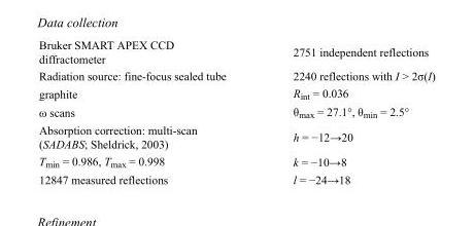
<table><tbody><tr><td>Bruker SMART APEX CCD diffractometer</td><td>2751 independent reflections</td></tr><tr><td>Radiation source: fine-focus sealed tube</td><td>2240 reflections with I &gt; 2σ(I)</td></tr><tr><td>graphite</td><td>R<sub>int</sub> = 0.036</td></tr><tr><td>ω scans</td><td>θ<sub>max</sub> = 27.1°, θ<sub>min</sub> = 2.5°</td></tr><tr><td>Absorption correction: multi-scan (SADABS; Sheldrick, 2003)</td><td>h = −12→20</td></tr><tr><td>T<sub>min</sub> = 0.986, T<sub>max</sub> = 0.998</td><td>k = −10→8</td></tr><tr><td>12847 measured reflections</td><td>l = −24→18</td></tr></tbody></table>